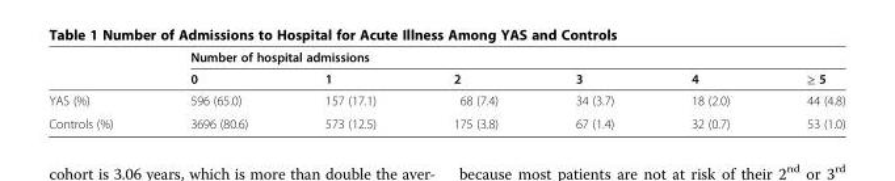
<table><thead><tr><td rowspan="2"></td><td colspan="6">Number of hospital admissions</td></tr><tr><td>0</td><td>1</td><td>2</td><td>3</td><td>4</td><td>≥ 5</td></tr></thead><tbody><tr><td>YAS (%)</td><td>596 (65.0)</td><td>157 (17.1)</td><td>68 (7.4)</td><td>34 (3.7)</td><td>18 (2.0)</td><td>44 (4.8)</td></tr><tr><td>Controls (%)</td><td>3696 (80.6)</td><td>573 (12.5)</td><td>175 (3.8)</td><td>67 (1.4)</td><td>32 (0.7)</td><td>53 (1.0)</td></tr></tbody></table>